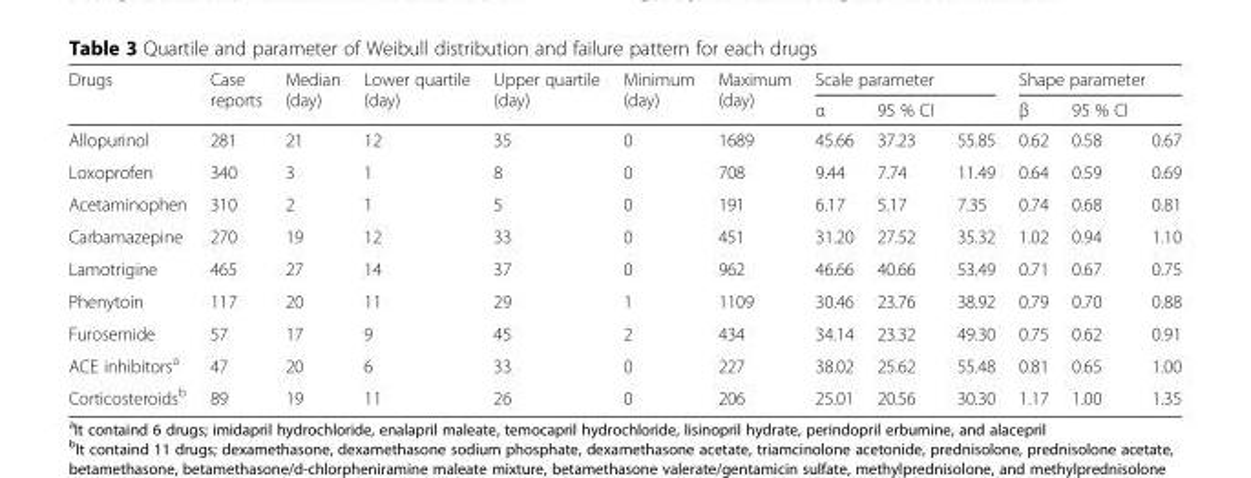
<table><thead><tr><td rowspan="2">Drugs</td><td rowspan="2">Case reports</td><td rowspan="2">Median (day)</td><td rowspan="2">Lower quartile (day)</td><td rowspan="2">Upper quartile (day)</td><td rowspan="2">Minimum (day)</td><td rowspan="2">Maximum (day)</td><td colspan="3">Scale parameter</td><td colspan="3">Shape parameter</td></tr><tr><td>α</td><td>95 % CI</td><td></td><td>β</td><td>95 % CI</td><td></td></tr></thead><tbody><tr><td>Allopurinol</td><td>281</td><td>21</td><td>12</td><td>35</td><td>0</td><td>1689</td><td>45.66</td><td>37.23</td><td>55.85</td><td>0.62</td><td>0.58</td><td>0.67</td></tr><tr><td>Loxoprofen</td><td>340</td><td>3</td><td>1</td><td>8</td><td>0</td><td>708</td><td>9.44</td><td>7.74</td><td>11.49</td><td>0.64</td><td>0.59</td><td>0.69</td></tr><tr><td>Acetaminophen</td><td>310</td><td>2</td><td>1</td><td>5</td><td>0</td><td>191</td><td>6.17</td><td>5.17</td><td>7.35</td><td>0.74</td><td>0.68</td><td>0.81</td></tr><tr><td>Carbamazepine</td><td>270</td><td>19</td><td>12</td><td>33</td><td>0</td><td>451</td><td>31.20</td><td>27.52</td><td>35.32</td><td>1.02</td><td>0.94</td><td>1.10</td></tr><tr><td>Lamotrigine</td><td>465</td><td>27</td><td>14</td><td>37</td><td>0</td><td>962</td><td>46.66</td><td>40.66</td><td>53.49</td><td>0.71</td><td>0.67</td><td>0.75</td></tr><tr><td>Phenytoin</td><td>117</td><td>20</td><td>11</td><td>29</td><td>1</td><td>1109</td><td>30.46</td><td>23.76</td><td>38.92</td><td>0.79</td><td>0.70</td><td>0.88</td></tr><tr><td>Furosemide</td><td>57</td><td>17</td><td>9</td><td>45</td><td>2</td><td>434</td><td>34.14</td><td>23.32</td><td>49.30</td><td>0.75</td><td>0.62</td><td>0.91</td></tr><tr><td>ACE inhibitors<sup>a</sup></td><td>47</td><td>20</td><td>6</td><td>33</td><td>0</td><td>227</td><td>38.02</td><td>25.62</td><td>55.48</td><td>0.81</td><td>0.65</td><td>1.00</td></tr><tr><td>Corticosteroids<sup>b</sup></td><td>89</td><td>19</td><td>11</td><td>26</td><td>0</td><td>206</td><td>25.01</td><td>20.56</td><td>30.30</td><td>1.17</td><td>1.00</td><td>1.35</td></tr></tbody></table>